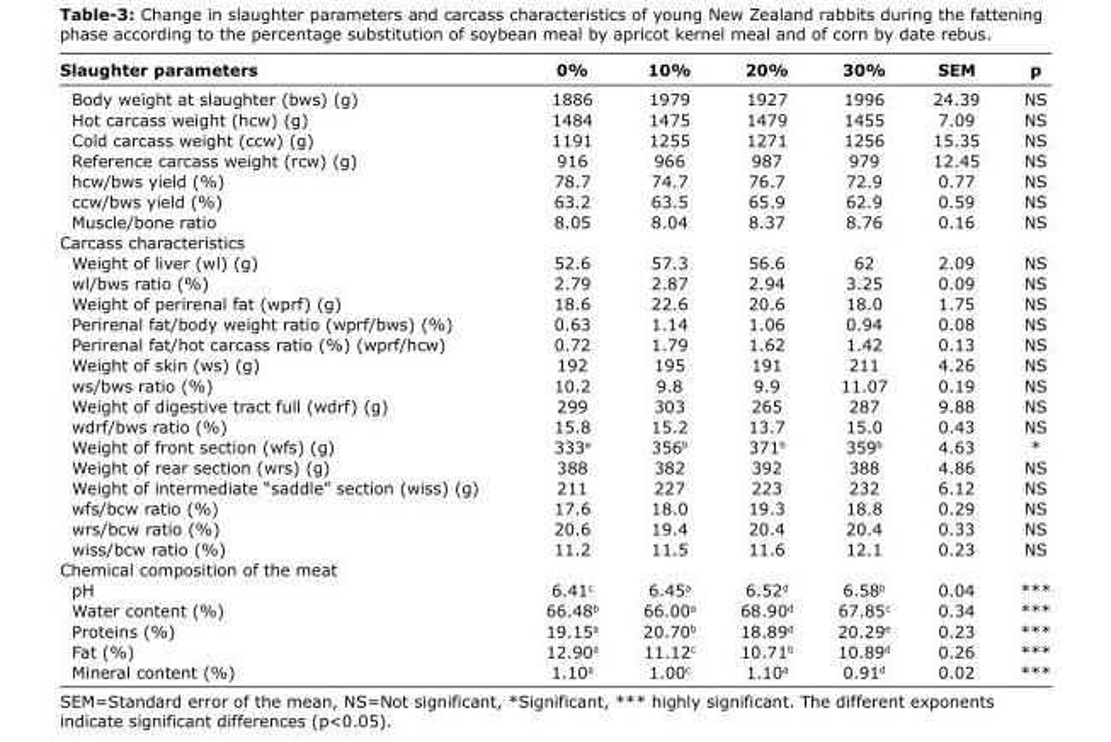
<table><thead><tr><td>Slaughter parameters</td><td>0%</td><td>10%</td><td>20%</td><td>30%</td><td>SEM</td><td>p</td></tr></thead><tbody><tr><td>Body weight at slaughter (bws) (g)</td><td>1886</td><td>1979</td><td>1927</td><td>1996</td><td>24.39</td><td>NS</td></tr><tr><td>Hot carcass weight (hcw) (g)</td><td>1484</td><td>1475</td><td>1479</td><td>1455</td><td>7.09</td><td>NS</td></tr><tr><td>Cold carcass weight (ccw) (g)</td><td>1191</td><td>1255</td><td>1271</td><td>1256</td><td>15.35</td><td>NS</td></tr><tr><td>Reference carcass weight (rcw) (g)</td><td>916</td><td>966</td><td>987</td><td>979</td><td>12.45</td><td>NS</td></tr><tr><td>hcw/bws yield (%)</td><td>78.7</td><td>74.7</td><td>76.7</td><td>72.9</td><td>0.77</td><td>NS</td></tr><tr><td>ccw/bws yield (%)</td><td>63.2</td><td>63.5</td><td>65.9</td><td>62.9</td><td>0.59</td><td>NS</td></tr><tr><td>Muscle/bone ratio</td><td>8.05</td><td>8.04</td><td>8.37</td><td>8.76</td><td>0.16</td><td>NS</td></tr><tr><td colspan="7">Carcass characteristics</td></tr><tr><td>Weight of liver (wl) (g)</td><td>52.6</td><td>57.3</td><td>56.6</td><td>62</td><td>2.09</td><td>NS</td></tr><tr><td>wl/bws ratio (%)</td><td>2.79</td><td>2.87</td><td>2.94</td><td>3.25</td><td>0.09</td><td>NS</td></tr><tr><td>Weight of perirenal fat (wprf) (g)</td><td>18.6</td><td>22.6</td><td>20.6</td><td>18.0</td><td>1.75</td><td>NS</td></tr><tr><td>Perirenal fat/body weight ratio (wprf/bws) (%)</td><td>0.63</td><td>1.14</td><td>1.06</td><td>0.94</td><td>0.08</td><td>NS</td></tr><tr><td>Perirenal fat/hot carcass ratio (%) (wprf/hcw)</td><td>0.72</td><td>1.79</td><td>1.62</td><td>1.42</td><td>0.13</td><td>NS</td></tr><tr><td>Weight of skin (ws) (g)</td><td>192</td><td>195</td><td>191</td><td>211</td><td>4.26</td><td>NS</td></tr><tr><td>ws/bws ratio (%)</td><td>10.2</td><td>9.8</td><td>9.9</td><td>11.07</td><td>0.19</td><td>NS</td></tr><tr><td>Weight of digestive tract full (wdrf) (g)</td><td>299</td><td>303</td><td>265</td><td>287</td><td>9.88</td><td>NS</td></tr><tr><td>wdrf/bws ratio (%)</td><td>15.8</td><td>15.2</td><td>13.7</td><td>15.0</td><td>0.43</td><td>NS</td></tr><tr><td>Weight of front section (wfs) (g)</td><td>333<sup>a</sup></td><td>356<sup>b</sup></td><td>371<sup>b</sup></td><td>359<sup>b</sup></td><td>4.63</td><td>*</td></tr><tr><td>Weight of rear section (wrs) (g)</td><td>388</td><td>382</td><td>392</td><td>388</td><td>4.86</td><td>NS</td></tr><tr><td>Weight of intermediate “saddle” section (wiss) (g)</td><td>211</td><td>227</td><td>223</td><td>232</td><td>6.12</td><td>NS</td></tr><tr><td>wfs/bcw ratio (%)</td><td>17.6</td><td>18.0</td><td>19.3</td><td>18.8</td><td>0.29</td><td>NS</td></tr><tr><td>wrs/bcw ratio (%)</td><td>20.6</td><td>19.4</td><td>20.4</td><td>20.4</td><td>0.33</td><td>NS</td></tr><tr><td>wiss/bcw ratio (%)</td><td>11.2</td><td>11.5</td><td>11.6</td><td>12.1</td><td>0.23</td><td>NS</td></tr><tr><td colspan="7">Chemical composition of the meat</td></tr><tr><td>pH</td><td>6.41<sup>c</sup></td><td>6.45<sup>a</sup></td><td>6.52<sup>d</sup></td><td>6.58<sup>b</sup></td><td>0.04</td><td>***</td></tr><tr><td>Water content (%)</td><td>66.48<sup>b</sup></td><td>66.00<sup>a</sup></td><td>68.90<sup>d</sup></td><td>67.85<sup>c</sup></td><td>0.34</td><td>***</td></tr><tr><td>Proteins (%)</td><td>19.15<sup>a</sup></td><td>20.70<sup>b</sup></td><td>18.89<sup>d</sup></td><td>20.29<sup>e</sup></td><td>0.23</td><td>***</td></tr><tr><td>Fat (%)</td><td>12.90<sup>a</sup></td><td>11.12<sup>c</sup></td><td>10.71<sup>b</sup></td><td>10.89<sup>d</sup></td><td>0.26</td><td>***</td></tr><tr><td>Mineral content (%)</td><td>1.10<sup>a</sup></td><td>1.00<sup>c</sup></td><td>1.10<sup>a</sup></td><td>0.91<sup>d</sup></td><td>0.02</td><td>***</td></tr></tbody></table>